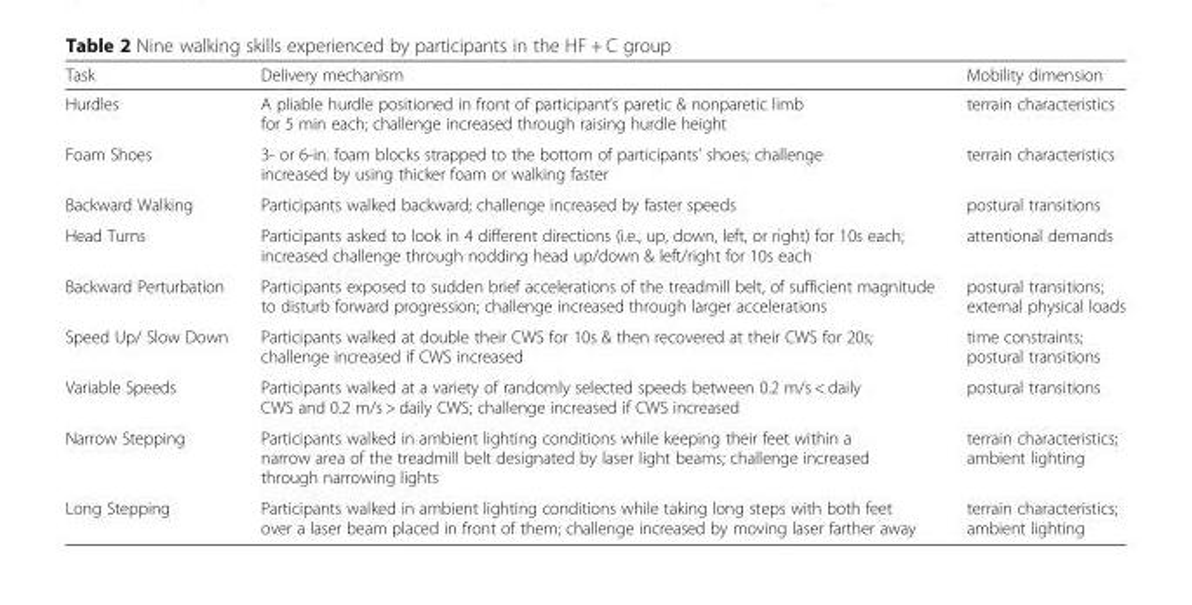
<table><thead><tr><td>Task</td><td>Delivery mechanism</td><td>Mobility dimension</td></tr></thead><tbody><tr><td>Hurdles</td><td>A pliable hurdle positioned in front of participant’s paretic &amp; nonparetic limb for 5 min each; challenge increased through raising hurdle height</td><td>terrain characteristics</td></tr><tr><td>Foam Shoes</td><td>3- or 6-in. foam blocks strapped to the bottom of participants’ shoes; challenge increased by using thicker foam or walking faster</td><td>terrain characteristics</td></tr><tr><td>Backward Walking</td><td>Participants walked backward; challenge increased by faster speeds</td><td>postural transitions</td></tr><tr><td>Head Turns</td><td>Participants asked to look in 4 different directions (i.e., up, down, left, or right) for 10s each; increased challenge through nodding head up/down &amp; left/right for 10s each</td><td>attentional demands</td></tr><tr><td>Backward Perturbation</td><td>Participants exposed to sudden brief accelerations of the treadmill belt, of sufficient magnitude to disturb forward progression; challenge increased through larger accelerations</td><td>postural transitions; external physical loads</td></tr><tr><td>Speed Up/ Slow Down</td><td>Participants walked at double their CWS for 10s &amp; then recovered at their CWS for 20s; challenge increased if CWS increased</td><td>time constraints; postural transitions</td></tr><tr><td>Variable Speeds</td><td>Participants walked at a variety of randomly selected speeds between 0.2 m/s &lt; daily CWS and 0.2 m/s &gt; daily CWS; challenge increased if CWS increased</td><td>postural transitions</td></tr><tr><td>Narrow Stepping</td><td>Participants walked in ambient lighting conditions while keeping their feet within a narrow area of the treadmill belt designated by laser light beams; challenge increased through narrowing lights</td><td>terrain characteristics; ambient lighting</td></tr><tr><td>Long Stepping</td><td>Participants walked in ambient lighting conditions while taking long steps with both feet over a laser beam placed in front of them; challenge increased by moving laser farther away</td><td>terrain characteristics; ambient lighting</td></tr></tbody></table>